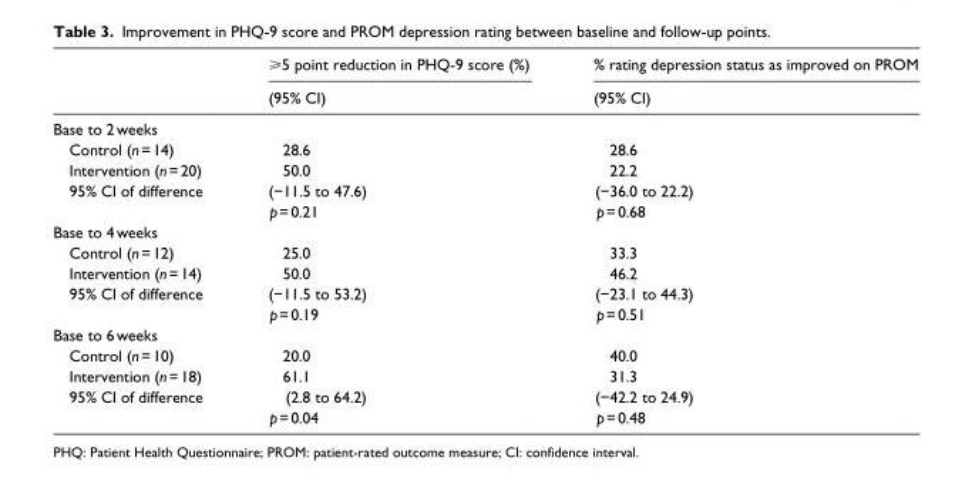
<table><thead><tr><td rowspan="2"></td><td rowspan="2">⩾5 point reduction in PHQ-9 score (%) (95% CI)</td><td rowspan="2">% rating depression status as improved on PROM (95% CI)</td></tr><tr></tr></thead><tbody><tr><td colspan="3">Base to 2 weeks</td></tr><tr><td>Control (n = 14)</td><td>28.6</td><td>28.6</td></tr><tr><td>Intervention (n = 20)</td><td>50.0</td><td>22.2</td></tr><tr><td rowspan="2">95% CI of difference</td><td>(−11.5 to 47.6)</td><td>(−36.0 to 22.2)</td></tr><tr><td>p = 0.21</td><td>p = 0.68</td></tr><tr><td colspan="3">Base to 4 weeks</td></tr><tr><td>Control (n = 12)</td><td>25.0</td><td>33.3</td></tr><tr><td>Intervention (n = 14)</td><td>50.0</td><td>46.2</td></tr><tr><td rowspan="2">95% CI of difference</td><td>(−11.5 to 53.2)</td><td>(−23.1 to 44.3)</td></tr><tr><td>p = 0.19</td><td>p = 0.51</td></tr><tr><td colspan="3">Base to 6 weeks</td></tr><tr><td>Control (n = 10)</td><td>20.0</td><td>40.0</td></tr><tr><td>Intervention (n = 18)</td><td>61.1</td><td>31.3</td></tr><tr><td rowspan="2">95% CI of difference</td><td>(2.8 to 64.2)</td><td>(−42.2 to 24.9)</td></tr><tr><td>p = 0.04</td><td>p = 0.48</td></tr></tbody></table>